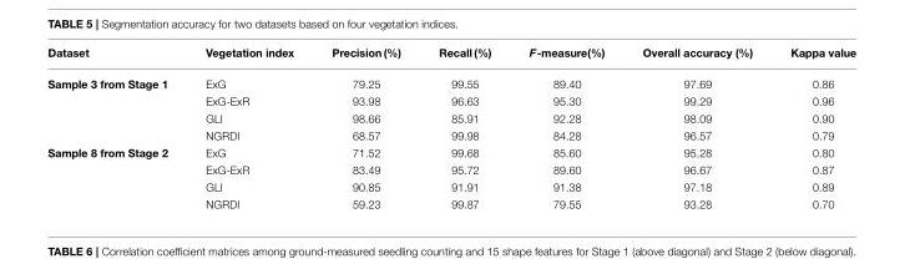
<table><thead><tr><td>Dataset</td><td>Vegetation index</td><td>Precision (%)</td><td>Recall (%)</td><td>F-measure(%)</td><td>Overall accuracy (%)</td><td>Kappa value</td></tr></thead><tbody><tr><td rowspan="4">Sample 3 from Stage 1</td><td>ExG</td><td>79.25</td><td>99.55</td><td>89.40</td><td>97.69</td><td>0.86</td></tr><tr><td>ExG-ExR</td><td>93.98</td><td>96.63</td><td>95.30</td><td>99.29</td><td>0.96</td></tr><tr><td>GLI</td><td>98.66</td><td>85.91</td><td>92.28</td><td>98.09</td><td>0.90</td></tr><tr><td>NGRDI</td><td>68.57</td><td>99.98</td><td>84.28</td><td>96.57</td><td>0.79</td></tr><tr><td rowspan="4">Sample 8 from Stage 2</td><td>ExG</td><td>71.52</td><td>99.68</td><td>85.60</td><td>95.28</td><td>0.80</td></tr><tr><td>ExG-ExR</td><td>83.49</td><td>95.72</td><td>89.60</td><td>96.67</td><td>0.87</td></tr><tr><td>GLI</td><td>90.85</td><td>91.91</td><td>91.38</td><td>97.18</td><td>0.89</td></tr><tr><td>NGRDI</td><td>59.23</td><td>99.87</td><td>79.55</td><td>93.28</td><td>0.70</td></tr></tbody></table>